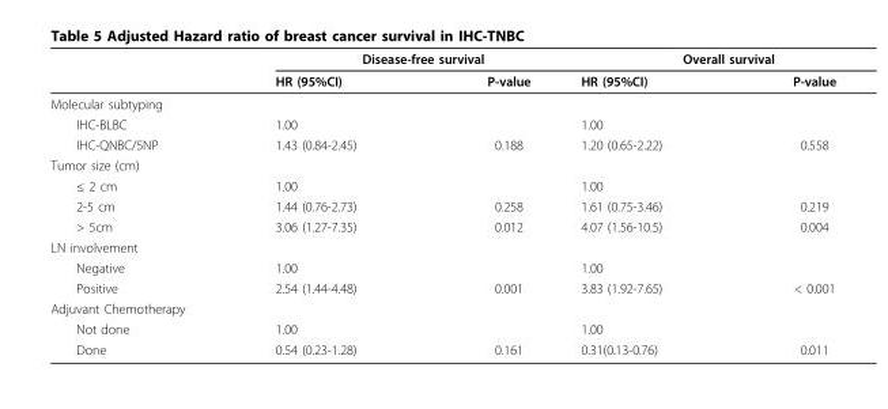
<table><thead><tr><td rowspan="2"></td><td colspan="2">Disease-free survival</td><td colspan="2">Overall survival</td></tr><tr><td>HR (95%CI)</td><td>P-value</td><td>HR (95%CI)</td><td>P-value</td></tr></thead><tbody><tr><td colspan="5">Molecular subtyping</td></tr><tr><td>IHC-BLBC</td><td>1.00</td><td></td><td>1.00</td><td></td></tr><tr><td>IHC-QNBC/5NP</td><td>1.43 (0.84-2.45)</td><td>0.188</td><td>1.20 (0.65-2.22)</td><td>0.558</td></tr><tr><td colspan="5">Tumor size (cm)</td></tr><tr><td>≤ 2 cm</td><td>1.00</td><td></td><td>1.00</td><td></td></tr><tr><td>2-5 cm</td><td>1.44 (0.76-2.73)</td><td>0.258</td><td>1.61 (0.75-3.46)</td><td>0.219</td></tr><tr><td>&gt; 5cm</td><td>3.06 (1.27-7.35)</td><td>0.012</td><td>4.07 (1.56-10.5)</td><td>0.004</td></tr><tr><td colspan="5">LN involvement</td></tr><tr><td>Negative</td><td>1.00</td><td></td><td>1.00</td><td></td></tr><tr><td>Positive</td><td>2.54 (1.44-4.48)</td><td>0.001</td><td>3.83 (1.92-7.65)</td><td>&lt; 0.001</td></tr><tr><td colspan="5">Adjuvant Chemotherapy</td></tr><tr><td>Not done</td><td>1.00</td><td></td><td>1.00</td><td></td></tr><tr><td>Done</td><td>0.54 (0.23-1.28)</td><td>0.161</td><td>0.31(0.13-0.76)</td><td>0.011</td></tr></tbody></table>